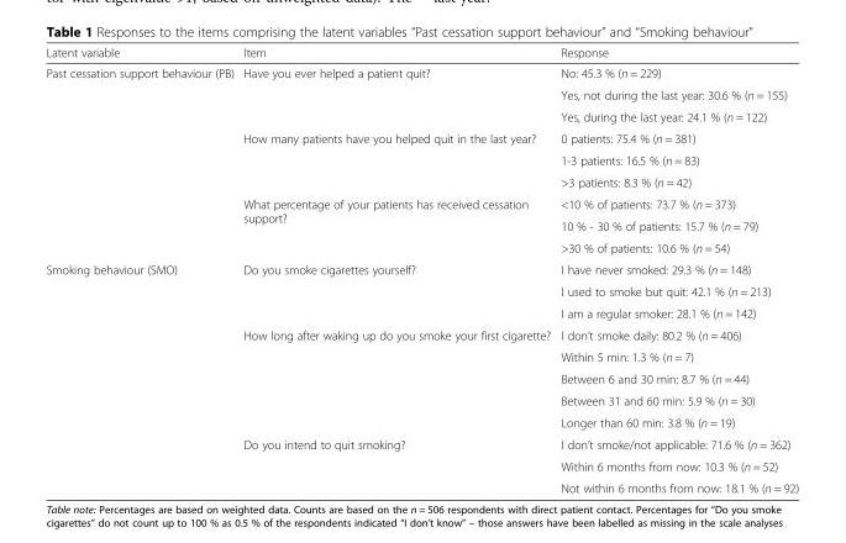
<table><thead><tr><td>Latent variable</td><td>Item</td><td>Response</td></tr></thead><tbody><tr><td rowspan="9">Past cessation support behaviour (PB)</td><td rowspan="3">Have you ever helped a patient quit?</td><td>No: 45.3 % (n = 229)</td></tr><tr><td>Yes, not during the last year: 30.6 % (n = 155)</td></tr><tr><td>Yes, during the last year: 24.1 % (n = 122)</td></tr><tr><td rowspan="3">How many patients have you helped quit in the last year?</td><td>0 patients: 75.4 % (n = 381)</td></tr><tr><td>1-3 patients: 16.5 % (n = 83)</td></tr><tr><td>&gt;3 patients: 8.3 % (n = 42)</td></tr><tr><td rowspan="3">What percentage of your patients has received cessation support?</td><td>&lt;10 % of patients: 73.7 % (n = 373)</td></tr><tr><td>10 % - 30 % of patients: 15.7 % (n = 79)</td></tr><tr><td>&gt;30 % of patients: 10.6 % (n = 54)</td></tr><tr><td rowspan="11">Smoking behaviour (SMO)</td><td rowspan="3">Do you smoke cigarettes yourself?</td><td>I have never smoked: 29.3 % (n = 148)</td></tr><tr><td>I used to smoke but quit: 42.1 % (n = 213)</td></tr><tr><td>I am a regular smoker: 28.1 % (n = 142)</td></tr><tr><td rowspan="5">How long after waking up do you smoke your first cigarette?</td><td>I don’t smoke daily: 80.2 % (n = 406)</td></tr><tr><td>Within 5 min: 1.3 % (n = 7)</td></tr><tr><td>Between 6 and 30 min: 8.7 % (n = 44)</td></tr><tr><td>Between 31 and 60 min: 5.9 % (n = 30)</td></tr><tr><td>Longer than 60 min: 3.8 % (n = 19)</td></tr><tr><td rowspan="3">Do you intend to quit smoking?</td><td>I don’t smoke/not applicable: 71.6 % (n = 362)</td></tr><tr><td>Within 6 months from now: 10.3 % (n = 52)</td></tr><tr><td>Not within 6 months from now: 18.1 % (n = 92)</td></tr></tbody></table>